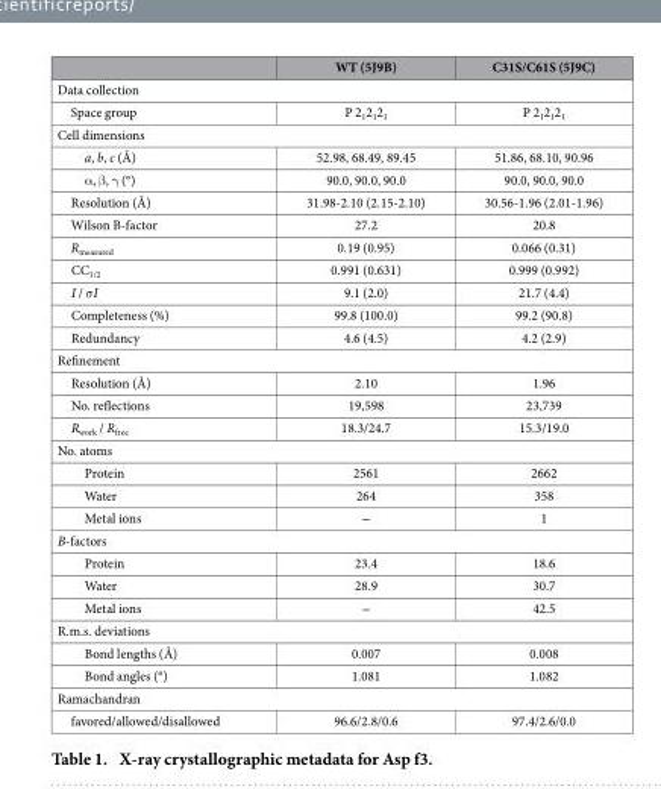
<table><thead><tr><td></td><td>WT (5J9B)</td><td>C31S/C61S (5J9C)</td></tr></thead><tbody><tr><td colspan="3">Data collection</td></tr><tr><td>Space group</td><td>P 2<sub>1</sub>2<sub>1</sub>2<sub>1</sub></td><td>P 2<sub>1</sub>2<sub>1</sub>2<sub>1</sub></td></tr><tr><td colspan="3">Cell dimensions</td></tr><tr><td>a, b, c (Å)</td><td>52.98, 68.49, 89.45</td><td>51.86, 68.10, 90.96</td></tr><tr><td>α , β , γ (°)</td><td>90.0, 90.0, 90.0</td><td>90.0, 90.0, 90.0</td></tr><tr><td>Resolution (Å)</td><td>31.98-2.10 (2.15-2.10)</td><td>30.56-1.96 (2.01-1.96)</td></tr><tr><td>Wilson B-factor</td><td>27.2</td><td>20.8</td></tr><tr><td>R<sub>measured</sub></td><td>0.19 (0.95)</td><td>0.066 (0.31)</td></tr><tr><td>CC<sub>1/2</sub></td><td>0.991 (0.631)</td><td>0.999 (0.992)</td></tr><tr><td>I / σ I</td><td>9.1 (2.0)</td><td>21.7 (4.4)</td></tr><tr><td>Completeness (%)</td><td>99.8 (100.0)</td><td>99.2 (90.8)</td></tr><tr><td>Redundancy</td><td>4.6 (4.5)</td><td>4.2 (2.9)</td></tr><tr><td colspan="3">Refinement</td></tr><tr><td>Resolution (Å)</td><td>2.10</td><td>1.96</td></tr><tr><td>No. reflections</td><td>19,598</td><td>23,739</td></tr><tr><td>R<sub>work</sub> / R<sub>free</sub></td><td>18.3/24.7</td><td>15.3/19.0</td></tr><tr><td colspan="3">No. atoms</td></tr><tr><td>Protein</td><td>2561</td><td>2662</td></tr><tr><td>Water</td><td>264</td><td>358</td></tr><tr><td>Metal ions</td><td>‒</td><td>1</td></tr><tr><td colspan="3">B-factors</td></tr><tr><td>Protein</td><td>23.4</td><td>18.6</td></tr><tr><td>Water</td><td>28.9</td><td>30.7</td></tr><tr><td>Metal ions</td><td>‒</td><td>42.5</td></tr><tr><td colspan="3">R.m.s. deviations</td></tr><tr><td>Bond lengths (Å)</td><td>0.007</td><td>0.008</td></tr><tr><td>Bond angles (°)</td><td>1.081</td><td>1.082</td></tr><tr><td colspan="3">Ramachandran</td></tr><tr><td>favored/allowed/disallowed</td><td>96.6/2.8/0.6</td><td>97.4/2.6/0.0</td></tr></tbody></table>